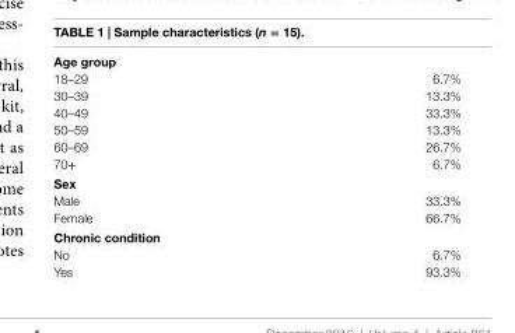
<table><tbody><tr><td colspan="2">age group</td></tr><tr><td>18–29</td><td>6.7%</td></tr><tr><td>30–39</td><td>13.3%</td></tr><tr><td>40–49</td><td>33.3%</td></tr><tr><td>50–59</td><td>13.3%</td></tr><tr><td>60–69</td><td>26.7%</td></tr><tr><td>70+</td><td>6.7%</td></tr><tr><td colspan="2">sex</td></tr><tr><td>Male</td><td>33.3%</td></tr><tr><td>Female</td><td>66.7%</td></tr><tr><td colspan="2">Chronic condition</td></tr><tr><td>No</td><td>6.7%</td></tr><tr><td>Yes</td><td>93.3%</td></tr></tbody></table>